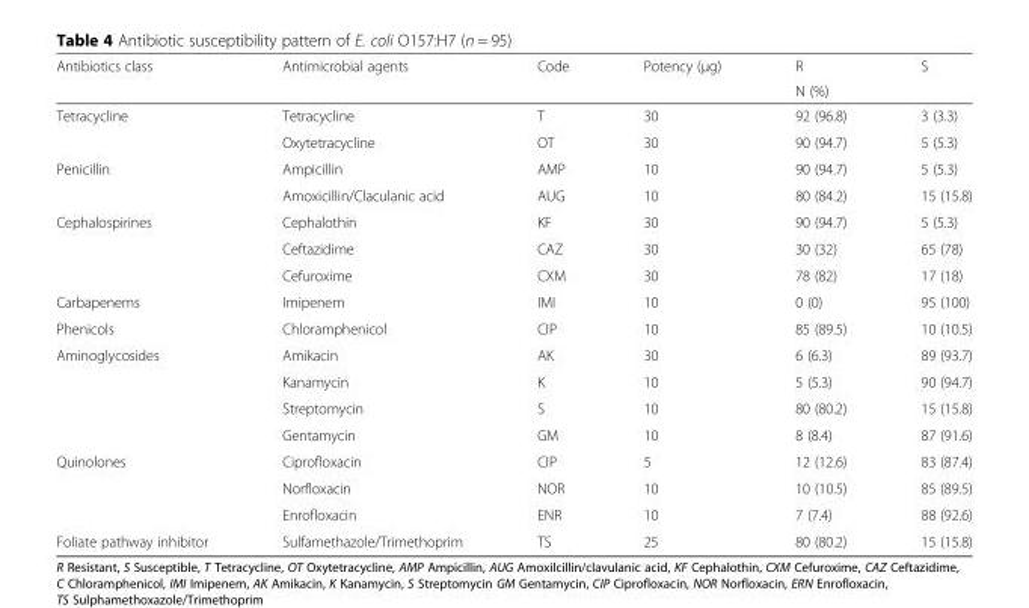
<table><thead><tr><td rowspan="2">Antibiotics class</td><td rowspan="2">Antimicrobial agents</td><td rowspan="2">Code</td><td rowspan="2">Potency (μg)</td><td>R</td><td>S</td></tr><tr><td colspan="2">N (%)</td></tr></thead><tbody><tr><td rowspan="2">Tetracycline</td><td>Tetracycline</td><td>T</td><td>30</td><td>92 (96.8)</td><td>3 (3.3)</td></tr><tr><td>Oxytetracycline</td><td>OT</td><td>30</td><td>90 (94.7)</td><td>5 (5.3)</td></tr><tr><td rowspan="2">Penicillin</td><td>Ampicillin</td><td>AMP</td><td>10</td><td>90 (94.7)</td><td>5 (5.3)</td></tr><tr><td>Amoxicillin/Claculanic acid</td><td>AUG</td><td>10</td><td>80 (84.2)</td><td>15 (15.8)</td></tr><tr><td rowspan="3">Cephalospirines</td><td>Cephalothin</td><td>KF</td><td>30</td><td>90 (94.7)</td><td>5 (5.3)</td></tr><tr><td>Ceftazidime</td><td>CAZ</td><td>30</td><td>30 (32)</td><td>65 (78)</td></tr><tr><td>Cefuroxime</td><td>CXM</td><td>30</td><td>78 (82)</td><td>17 (18)</td></tr><tr><td>Carbapenems</td><td>Imipenem</td><td>IMI</td><td>10</td><td>0 (0)</td><td>95 (100)</td></tr><tr><td>Phenicols</td><td>Chloramphenicol</td><td>CIP</td><td>10</td><td>85 (89.5)</td><td>10 (10.5)</td></tr><tr><td rowspan="4">Aminoglycosides</td><td>Amikacin</td><td>AK</td><td>30</td><td>6 (6.3)</td><td>89 (93.7)</td></tr><tr><td>Kanamycin</td><td>K</td><td>10</td><td>5 (5.3)</td><td>90 (94.7)</td></tr><tr><td>Streptomycin</td><td>S</td><td>10</td><td>80 (80.2)</td><td>15 (15.8)</td></tr><tr><td>Gentamycin</td><td>GM</td><td>10</td><td>8 (8.4)</td><td>87 (91.6)</td></tr><tr><td rowspan="3">Quinolones</td><td>Ciprofloxacin</td><td>CIP</td><td>5</td><td>12 (12.6)</td><td>83 (87.4)</td></tr><tr><td>Norfloxacin</td><td>NOR</td><td>10</td><td>10 (10.5)</td><td>85 (89.5)</td></tr><tr><td>Enrofloxacin</td><td>ENR</td><td>10</td><td>7 (7.4)</td><td>88 (92.6)</td></tr><tr><td>Foliate pathway inhibitor</td><td>Sulfamethazole/Trimethoprim</td><td>TS</td><td>25</td><td>80 (80.2)</td><td>15 (15.8)</td></tr></tbody></table>